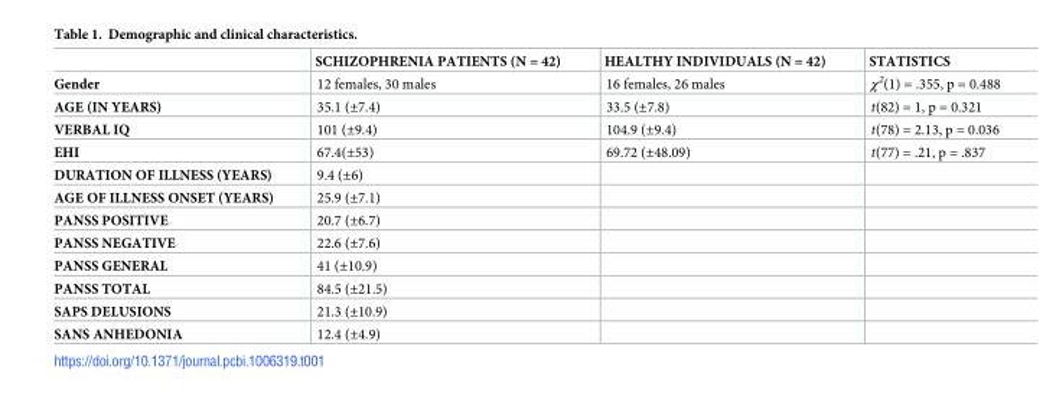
<table><thead><tr><td></td><td>SCHIZOPHRENIA PATIENTS (N = 42)</td><td>HEALTHY INDIVIDUALS (N = 42)</td><td>STATISTICS</td></tr></thead><tbody><tr><td>Gender</td><td>12 females, 30 males</td><td>16 females, 26 males</td><td>χ<sup>2</sup>(1) = .355, p = 0.488</td></tr><tr><td>AGE (IN YEARS)</td><td>35.1 (±7.4)</td><td>33.5 (±7.8)</td><td>t(82) = 1, p = 0.321</td></tr><tr><td>VERBAL IQ</td><td>101 (±9.4)</td><td>104.9 (±9.4)</td><td>t(78) = 2.13, p = 0.036</td></tr><tr><td>EHI</td><td>67.4(±53)</td><td>69.72 (±48.09)</td><td>t(77) = .21, p = .837</td></tr><tr><td>DURATION OF ILLNESS (YEARS)</td><td>9.4 (±6)</td><td></td><td></td></tr><tr><td>AGE OF ILLNESS ONSET (YEARS)</td><td>25.9 (±7.1)</td><td></td><td></td></tr><tr><td>PANSS POSITIVE</td><td>20.7 (±6.7)</td><td></td><td></td></tr><tr><td>PANSS NEGATIVE</td><td>22.6 (±7.6)</td><td></td><td></td></tr><tr><td>PANSS GENERAL</td><td>41 (±10.9)</td><td></td><td></td></tr><tr><td>PANSS TOTAL</td><td>84.5 (±21.5)</td><td></td><td></td></tr><tr><td>SAPS DELUSIONS</td><td>21.3 (±10.9)</td><td></td><td></td></tr><tr><td>SANS ANHEDONIA</td><td>12.4 (±4.9)</td><td></td><td></td></tr></tbody></table>